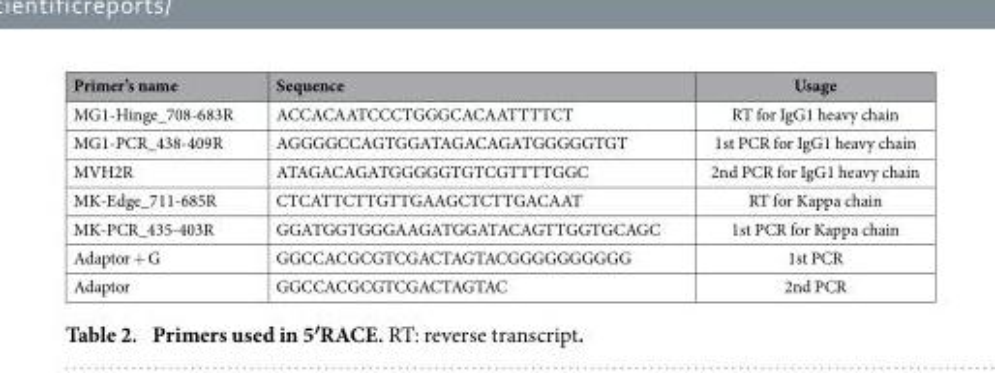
<table><thead><tr><td>Primer’s name</td><td>Sequence</td><td>Usage</td></tr></thead><tbody><tr><td>MG1-Hinge_708-683R</td><td>ACCACAATCCCTGGGCACAATTTTCT</td><td>RT for IgG1 heavy chain</td></tr><tr><td>MG1-PCR_438-409R</td><td>AGGGGCCAGTGGATAGACAGATGGGGGTGT</td><td>1st PCR for IgG1 heavy chain</td></tr><tr><td>MVH2R</td><td>ATAGACAGATGGGGGTGTCGTTTTGGC</td><td>2nd PCR for IgG1 heavy chain</td></tr><tr><td>MK-Edge_711-685R</td><td>CTCATTCTTGTTGAAGCTCTTGACAAT</td><td>RT for Kappa chain</td></tr><tr><td>MK-PCR_435-403R</td><td>GGATGGTGGGAAGATGGATACAGTTGGTGCAGC</td><td>1st PCR for Kappa chain</td></tr><tr><td>Adaptor + G</td><td>GGCCACGCGTCGACTAGTACGGGGGGGGGG</td><td>1st PCR</td></tr><tr><td>Adaptor</td><td>GGCCACGCGTCGACTAGTAC</td><td>2nd PCR</td></tr></tbody></table>